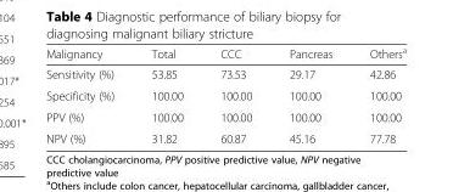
<table><thead><tr><td>Malignancy</td><td>Total</td><td>CCC</td><td>Pancreas</td><td>Others<sup>a</sup></td></tr></thead><tbody><tr><td>Sensitivity (%)</td><td>53.85</td><td>73.53</td><td>29.17</td><td>42.86</td></tr><tr><td>Specificity (%)</td><td>100.00</td><td>100.00</td><td>100.00</td><td>100.00</td></tr><tr><td>PPV (%)</td><td>100.00</td><td>100.00</td><td>100.00</td><td>100.00</td></tr><tr><td>NPV (%)</td><td>31.82</td><td>60.87</td><td>45.16</td><td>77.78</td></tr></tbody></table>